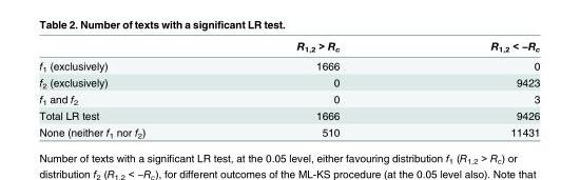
<table><thead><tr><td></td><td>R<sub>1,2</sub> &gt; R<sub>c</sub></td><td>R<sub>1,2</sub> &lt; −R<sub>c</sub></td></tr></thead><tbody><tr><td>f<sub>1</sub> (exclusively)</td><td>1666</td><td>0</td></tr><tr><td>f<sub>2</sub> (exclusively)</td><td>0</td><td>9423</td></tr><tr><td>f<sub>1</sub> and f<sub>2</sub></td><td>0</td><td>3</td></tr><tr><td>Total LR test</td><td>1666</td><td>9426</td></tr><tr><td>None (neither f<sub>1</sub> nor f<sub>2</sub>)</td><td>510</td><td>11431</td></tr></tbody></table>